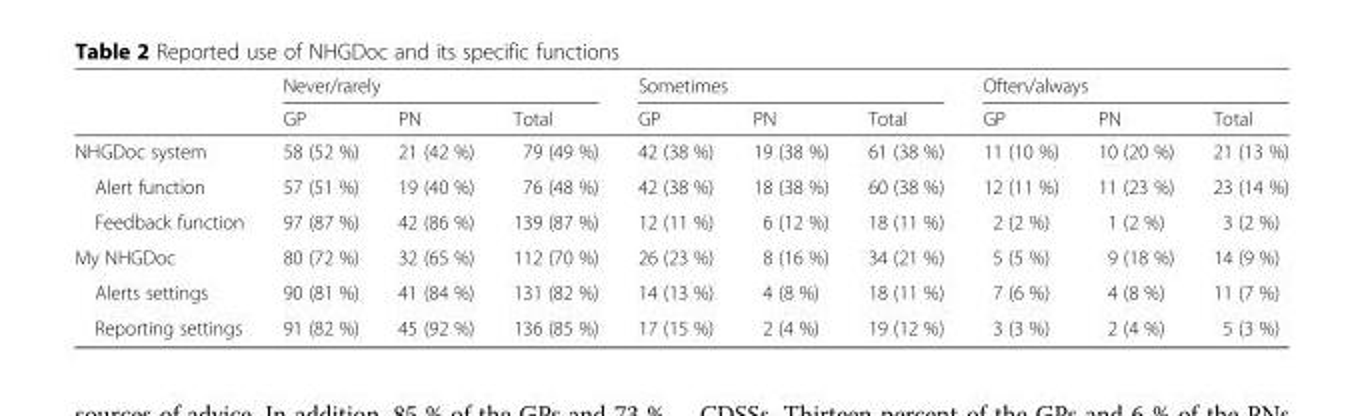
<table><thead><tr><td rowspan="2"></td><td colspan="3">Never/rarely</td><td colspan="3">Sometimes</td><td colspan="3">Often/always</td></tr><tr><td>GP</td><td>PN</td><td>Total</td><td>GP</td><td>PN</td><td>Total</td><td>GP</td><td>PN</td><td>Total</td></tr></thead><tbody><tr><td>NHGDoc system</td><td>58 (52 %)</td><td>21 (42 %)</td><td>79 (49 %)</td><td>42 (38 %)</td><td>19 (38 %)</td><td>61 (38 %)</td><td>11 (10 %)</td><td>10 (20 %)</td><td>21 (13 %)</td></tr><tr><td>Alert function</td><td>57 (51 %)</td><td>19 (40 %)</td><td>76 (48 %)</td><td>42 (38 %)</td><td>18 (38 %)</td><td>60 (38 %)</td><td>12 (11 %)</td><td>11 (23 %)</td><td>23 (14 %)</td></tr><tr><td>Feedback function</td><td>97 (87 %)</td><td>42 (86 %)</td><td>139 (87 %)</td><td>12 (11 %)</td><td>6 (12 %)</td><td>18 (11 %)</td><td>2 (2 %)</td><td>1 (2 %)</td><td>3 (2 %)</td></tr><tr><td>My NHGDoc</td><td>80 (72 %)</td><td>32 (65 %)</td><td>112 (70 %)</td><td>26 (23 %)</td><td>8 (16 %)</td><td>34 (21 %)</td><td>5 (5 %)</td><td>9 (18 %)</td><td>14 (9 %)</td></tr><tr><td>Alerts settings</td><td>90 (81 %)</td><td>41 (84 %)</td><td>131 (82 %)</td><td>14 (13 %)</td><td>4 (8 %)</td><td>18 (11 %)</td><td>7 (6 %)</td><td>4 (8 %)</td><td>11 (7 %)</td></tr><tr><td>Reporting settings</td><td>91 (82 %)</td><td>45 (92 %)</td><td>136 (85 %)</td><td>17 (15 %)</td><td>2 (4 %)</td><td>19 (12 %)</td><td>3 (3 %)</td><td>2 (4 %)</td><td>5 (3 %)</td></tr></tbody></table>